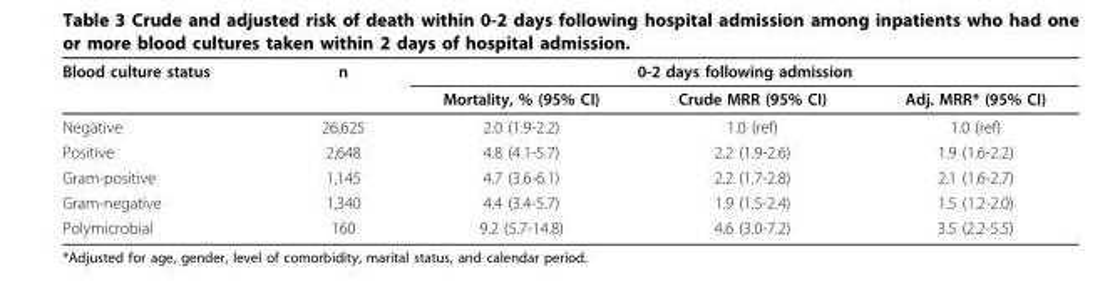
<table><thead><tr><td rowspan="2">Blood culture status</td><td rowspan="2">n</td><td colspan="3">0-2 days following admission</td></tr><tr><td>Mortality, % (95% CI)</td><td>Crude MRR (95% CI)</td><td>Adj. MRR* (95% CI)</td></tr></thead><tbody><tr><td>Negative</td><td>26,625</td><td>2.0 (1.9-2.2)</td><td>1.0 (ref)</td><td>1.0 (ref)</td></tr><tr><td>Positive</td><td>2,648</td><td>4.8 (4.1-5.7)</td><td>2.2 (1.9-2.6)</td><td>1.9 (1.6-2.2)</td></tr><tr><td>Gram-positive</td><td>1,145</td><td>4.7 (3.6-6.1)</td><td>2.2 (1.7-2.8)</td><td>2.1 (1.6-2.7)</td></tr><tr><td>Gram-negative</td><td>1,340</td><td>4.4 (3.4-5.7)</td><td>1.9 (1.5-2.4)</td><td>1.5 (1.2-2.0)</td></tr><tr><td>Polymicrobial</td><td>160</td><td>9.2 (5.7-14.8)</td><td>4.6 (3.0-7.2)</td><td>3.5 (2.2-5.5)</td></tr></tbody></table>